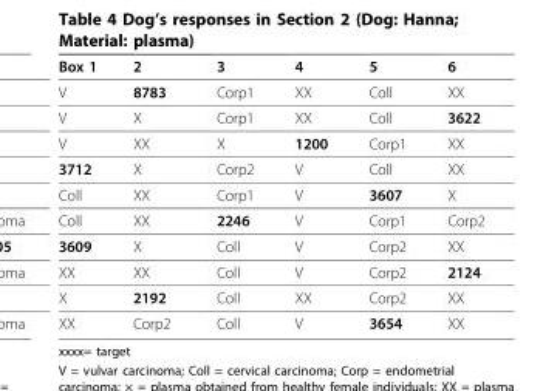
<table><thead><tr><td>Box 1</td><td>2</td><td>3</td><td>4</td><td>5</td><td>6</td></tr></thead><tbody><tr><td>V</td><td>8783</td><td>Corp1</td><td>XX</td><td>Coll</td><td>XX</td></tr><tr><td>V</td><td>X</td><td>Corp1</td><td>XX</td><td>Coll</td><td>3622</td></tr><tr><td>V</td><td>XX</td><td>X</td><td>1200</td><td>Corp1</td><td>XX</td></tr><tr><td>3712</td><td>X</td><td>Corp2</td><td>V</td><td>Coll</td><td>XX</td></tr><tr><td>Coll</td><td>XX</td><td>Corp1</td><td>V</td><td>3607</td><td>X</td></tr><tr><td>Coll</td><td>XX</td><td>2246</td><td>V</td><td>Corp1</td><td>Corp2</td></tr><tr><td>3609</td><td>X</td><td>Coll</td><td>V</td><td>Corp2</td><td>XX</td></tr><tr><td>XX</td><td>XX</td><td>Coll</td><td>V</td><td>Corp2</td><td>2124</td></tr><tr><td>X</td><td>2192</td><td>Coll</td><td>XX</td><td>Corp2</td><td>XX</td></tr><tr><td>XX</td><td>Corp2</td><td>Coll</td><td>V</td><td>3654</td><td>XX</td></tr></tbody></table>